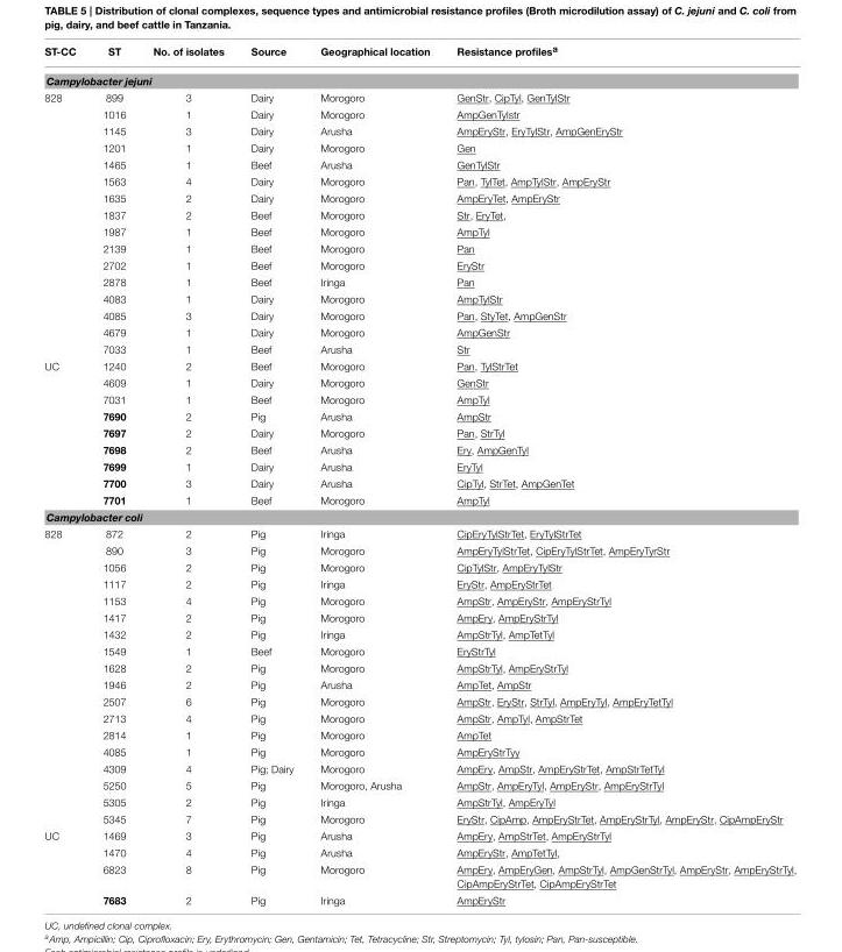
<table><thead><tr><td>ST-CC</td><td>ST</td><td>No. of isolates</td><td>Source</td><td>Geographical location</td><td>Resistance profiles<sup>a</sup></td></tr></thead><tbody><tr><td colspan="6">Campylobacter jejuni</td></tr><tr><td rowspan="16">828</td><td>899</td><td>3</td><td>Dairy</td><td>Morogoro</td><td>GenStr, CipTyl, GenTylStr</td></tr><tr><td>1016</td><td>1</td><td>Dairy</td><td>Morogoro</td><td>AmpGenTylstr</td></tr><tr><td>1145</td><td>3</td><td>Dairy</td><td>Arusha</td><td>AmpEryStr, EryTylStr, AmpGenEryStr</td></tr><tr><td>1201</td><td>1</td><td>Dairy</td><td>Morogoro</td><td>Gen</td></tr><tr><td>1465</td><td>1</td><td>Beef</td><td>Arusha</td><td>GenTylStr</td></tr><tr><td>1563</td><td>4</td><td>Dairy</td><td>Morogoro</td><td>Pan, TylTet, AmpTylStr, AmpEryStr</td></tr><tr><td>1635</td><td>2</td><td>Dairy</td><td>Morogoro</td><td>AmpEryTet, AmpEryStr</td></tr><tr><td>1837</td><td>2</td><td>Beef</td><td>Morogoro</td><td>Str, EryTet,</td></tr><tr><td>1987</td><td>1</td><td>Beef</td><td>Morogoro</td><td>AmpTyl</td></tr><tr><td>2139</td><td>1</td><td>Beef</td><td>Morogoro</td><td>Pan</td></tr><tr><td>2702</td><td>1</td><td>Beef</td><td>Morogoro</td><td>EryStr</td></tr><tr><td>2878</td><td>1</td><td>Beef</td><td>Iringa</td><td>Pan</td></tr><tr><td>4083</td><td>1</td><td>Dairy</td><td>Morogoro</td><td>AmpTylStr</td></tr><tr><td>4085</td><td>3</td><td>Dairy</td><td>Morogoro</td><td>Pan, StyTet, AmpGenStr</td></tr><tr><td>4679</td><td>1</td><td>Dairy</td><td>Morogoro</td><td>AmpGenStr</td></tr><tr><td>7033</td><td>1</td><td>Beef</td><td>Arusha</td><td>Str</td></tr><tr><td rowspan="9">UC</td><td>1240</td><td>2</td><td>Beef</td><td>Morogoro</td><td>Pan, TylStrTet</td></tr><tr><td>4609</td><td>1</td><td>Dairy</td><td>Morogoro</td><td>GenStr</td></tr><tr><td>7031</td><td>1</td><td>Beef</td><td>Morogoro</td><td>AmpTyl</td></tr><tr><td>7690</td><td>2</td><td>Pig</td><td>Arusha</td><td>AmpStr</td></tr><tr><td>7697</td><td>2</td><td>Dairy</td><td>Morogoro</td><td>Pan, StrTyl</td></tr><tr><td>7698</td><td>2</td><td>Beef</td><td>Arusha</td><td>Ery, AmpGenTyl</td></tr><tr><td>7699</td><td>1</td><td>Dairy</td><td>Arusha</td><td>EryTyl</td></tr><tr><td>7700</td><td>3</td><td>Dairy</td><td>Arusha</td><td>CipTyl, StrTet, AmpGenTet</td></tr><tr><td>7701</td><td>1</td><td>Beef</td><td>Morogoro</td><td>AmpTyl</td></tr><tr><td colspan="6">Campylobacter coli</td></tr><tr><td rowspan="18">828</td><td>872</td><td>2</td><td>Pig</td><td>Iringa</td><td>CipEryTylStrTet, EryTylStrTet</td></tr><tr><td>890</td><td>3</td><td>Pig</td><td>Morogoro</td><td>AmpEryTylStrTet, CipEryTylStrTet, AmpEryTyrStr</td></tr><tr><td>1056</td><td>2</td><td>Pig</td><td>Morogoro</td><td>CipTylStr, AmpEryTylStr</td></tr><tr><td>1117</td><td>2</td><td>Pig</td><td>Iringa</td><td>EryStr, AmpEryStrTet</td></tr><tr><td>1153</td><td>4</td><td>Pig</td><td>Morogoro</td><td>AmpStr, AmpEryStr, AmpEryStrTyl</td></tr><tr><td>1417</td><td>2</td><td>Pig</td><td>Morogoro</td><td>AmpEry, AmpEryStrTyl</td></tr><tr><td>1432</td><td>2</td><td>Pig</td><td>Iringa</td><td>AmpStrTyl, AmpTetTyl</td></tr><tr><td>1549</td><td>1</td><td>Beef</td><td>Morogoro</td><td>EryStrTyl</td></tr><tr><td>1628</td><td>2</td><td>Pig</td><td>Morogoro</td><td>AmpStrTyl, AmpEryStrTyl</td></tr><tr><td>1946</td><td>2</td><td>Pig</td><td>Arusha</td><td>AmpTet, AmpStr</td></tr><tr><td>2507</td><td>6</td><td>Pig</td><td>Morogoro</td><td>AmpStr, EryStr, StrTyl, AmpEryTyl, AmpEryTetTyl</td></tr><tr><td>2713</td><td>4</td><td>Pig</td><td>Morogoro</td><td>AmpStr, AmpTyl, AmpStrTet</td></tr><tr><td>2814</td><td>1</td><td>Pig</td><td>Morogoro</td><td>AmpTet</td></tr><tr><td>4085</td><td>1</td><td>Pig</td><td>Morogoro</td><td>AmpEryStrTyy</td></tr><tr><td>4309</td><td>4</td><td>Pig; Dairy</td><td>Morogoro</td><td>AmpEry, AmpStr, AmpEryStrTet, AmpStrTetTyl</td></tr><tr><td>5250</td><td>5</td><td>Pig</td><td>Morogoro, Arusha</td><td>AmpStr, AmpEryTyl, AmpEryStr, AmpEryStrTyl</td></tr><tr><td>5305</td><td>2</td><td>Pig</td><td>Iringa</td><td>AmpStrTyl, AmpEryTyl</td></tr><tr><td>5345</td><td>7</td><td>Pig</td><td>Morogoro</td><td>EryStr, CipAmp, AmpEryStrTet, AmpEryStrTyl, AmpEryStr, CipAmpEryStr</td></tr><tr><td rowspan="4">UC</td><td>1469</td><td>3</td><td>Pig</td><td>Arusha</td><td>AmpEry, AmpStrTet, AmpEryStrTyl</td></tr><tr><td>1470</td><td>4</td><td>Pig</td><td>Arusha</td><td>AmpEryStr, AmpTetTyl,</td></tr><tr><td>6823</td><td>8</td><td>Pig</td><td>Morogoro</td><td>AmpEry, AmpEryGen, AmpStrTyl, AmpGenStrTyl, AmpEryStr, AmpEryStrTyl, CipAmpEryStrTet, CipAmpEryStrTet</td></tr><tr><td>7683</td><td>2</td><td>Pig</td><td>Iringa</td><td>AmpEryStr</td></tr></tbody></table>